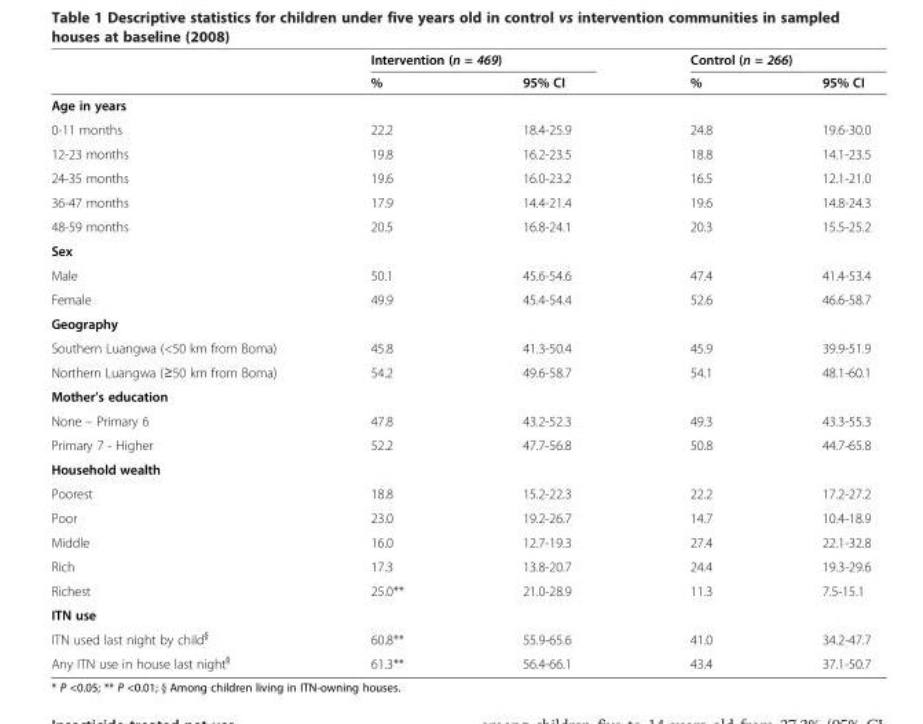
<table><thead><tr><td rowspan="2"></td><td colspan="2">Intervention (n = 469)</td><td colspan="2">Control (n = 266)</td></tr><tr><td>%</td><td>95% CI</td><td>%</td><td>95% CI</td></tr></thead><tbody><tr><td colspan="5">Age in years</td></tr><tr><td>0-11 months</td><td>22.2</td><td>18.4-25.9</td><td>24.8</td><td>19.6-30.0</td></tr><tr><td>12-23 months</td><td>19.8</td><td>16.2-23.5</td><td>18.8</td><td>14.1-23.5</td></tr><tr><td>24-35 months</td><td>19.6</td><td>16.0-23.2</td><td>16.5</td><td>12.1-21.0</td></tr><tr><td>36-47 months</td><td>17.9</td><td>14.4-21.4</td><td>19.6</td><td>14.8-24.3</td></tr><tr><td>48-59 months</td><td>20.5</td><td>16.8-24.1</td><td>20.3</td><td>15.5-25.2</td></tr><tr><td colspan="5">Sex</td></tr><tr><td>Male</td><td>50.1</td><td>45.6-54.6</td><td>47.4</td><td>41.4-53.4</td></tr><tr><td>Female</td><td>49.9</td><td>45.4-54.4</td><td>52.6</td><td>46.6-58.7</td></tr><tr><td colspan="5">Geography</td></tr><tr><td>Southern Luangwa (&lt;50 km from Boma)</td><td>45.8</td><td>41.3-50.4</td><td>45.9</td><td>39.9-51.9</td></tr><tr><td>Northern Luangwa (≥50 km from Boma)</td><td>54.2</td><td>49.6-58.7</td><td>54.1</td><td>48.1-60.1</td></tr><tr><td colspan="5">Mother’s education</td></tr><tr><td>None – Primary 6</td><td>47.8</td><td>43.2-52.3</td><td>49.3</td><td>43.3-55.3</td></tr><tr><td>Primary 7 - Higher</td><td>52.2</td><td>47.7-56.8</td><td>50.8</td><td>44.7-65.8</td></tr><tr><td colspan="5">Household wealth</td></tr><tr><td>Poorest</td><td>18.8</td><td>15.2-22.3</td><td>22.2</td><td>17.2-27.2</td></tr><tr><td>Poor</td><td>23.0</td><td>19.2-26.7</td><td>14.7</td><td>10.4-18.9</td></tr><tr><td>Middle</td><td>16.0</td><td>12.7-19.3</td><td>27.4</td><td>22.1-32.8</td></tr><tr><td>Rich</td><td>17.3</td><td>13.8-20.7</td><td>24.4</td><td>19.3-29.6</td></tr><tr><td>Richest</td><td>25.0**</td><td>21.0-28.9</td><td>11.3</td><td>7.5-15.1</td></tr><tr><td colspan="5">ITN use</td></tr><tr><td>ITN used last night by child<sup>§</sup></td><td>60.8**</td><td>55.9-65.6</td><td>41.0</td><td>34.2-47.7</td></tr><tr><td>Any ITN use in house last night<sup>§</sup></td><td>61.3**</td><td>56.4-66.1</td><td>43.4</td><td>37.1-50.7</td></tr></tbody></table>